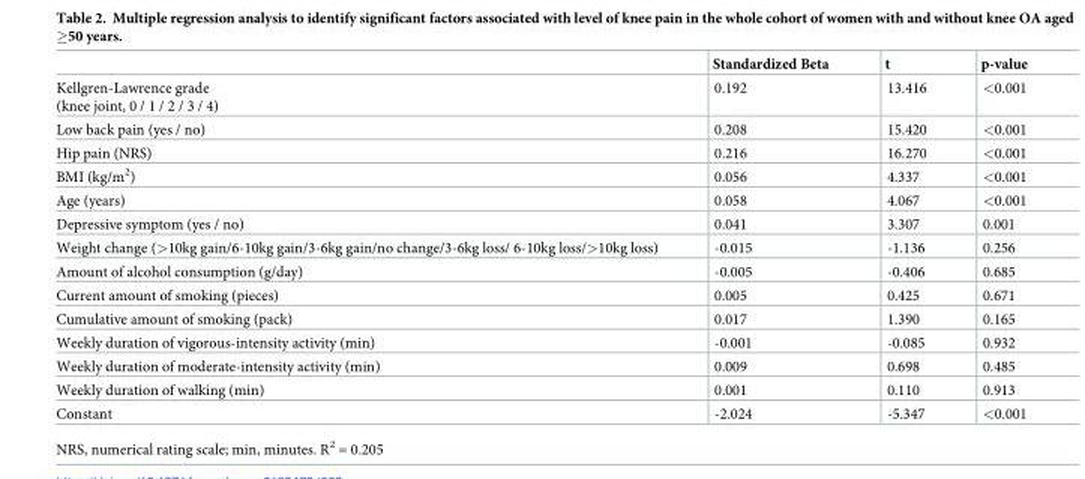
<table><thead><tr><td></td><td>Standardized Beta</td><td>t</td><td>p-value</td></tr></thead><tbody><tr><td>Kellgren-Lawrence grade (knee joint, 0 / 1 / 2 / 3 / 4)</td><td>0.192</td><td>13.416</td><td>&lt;0.001</td></tr><tr><td>Low back pain (yes / no)</td><td>0.208</td><td>15.420</td><td>&lt;0.001</td></tr><tr><td>Hip pain (NRS)</td><td>0.216</td><td>16.270</td><td>&lt;0.001</td></tr><tr><td>BMI (kg/m<sup>2</sup>)</td><td>0.056</td><td>4.337</td><td>&lt;0.001</td></tr><tr><td>Age (years)</td><td>0.058</td><td>4.067</td><td>&lt;0.001</td></tr><tr><td>Depressive symptom (yes / no)</td><td>0.041</td><td>3.307</td><td>0.001</td></tr><tr><td>Weight change (&gt;10kg gain/6-10kg gain/3-6kg gain/no change/3-6kg loss/ 6-10kg loss/&gt;10kg loss)</td><td>-0.015</td><td>-1.136</td><td>0.256</td></tr><tr><td>Amount of alcohol consumption (g/day)</td><td>-0.005</td><td>-0.406</td><td>0.685</td></tr><tr><td>Current amount of smoking (pieces)</td><td>0.005</td><td>0.425</td><td>0.671</td></tr><tr><td>Cumulative amount of smoking (pack)</td><td>0.017</td><td>1.390</td><td>0.165</td></tr><tr><td>Weekly duration of vigorous-intensity activity (min)</td><td>-0.001</td><td>-0.085</td><td>0.932</td></tr><tr><td>Weekly duration of moderate-intensity activity (min)</td><td>0.009</td><td>0.698</td><td>0.485</td></tr><tr><td>Weekly duration of walking (min)</td><td>0.001</td><td>0.110</td><td>0.913</td></tr><tr><td>Constant</td><td>-2.024</td><td>-5.347</td><td>&lt;0.001</td></tr></tbody></table>